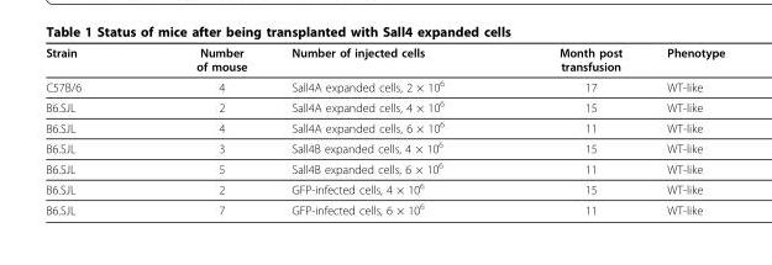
<table><thead><tr><td>Strain</td><td>Number of mouse</td><td>Number of injected cells</td><td>Month post transfusion</td><td>Phenotype</td></tr></thead><tbody><tr><td>C57B/6</td><td>4</td><td>Sall4A expanded cells, 2 × 10<sup>6</sup></td><td>17</td><td>WT-like</td></tr><tr><td>B6.SJL</td><td>2</td><td>Sall4A expanded cells, 4 × 10<sup>6</sup></td><td>15</td><td>WT-like</td></tr><tr><td>B6.SJL</td><td>4</td><td>Sall4A expanded cells, 6 × 10<sup>6</sup></td><td>11</td><td>WT-like</td></tr><tr><td>B6.SJL</td><td>3</td><td>Sall4B expanded cells, 4 × 10<sup>6</sup></td><td>15</td><td>WT-like</td></tr><tr><td>B6.SJL</td><td>5</td><td>Sall4B expanded cells, 6 × 10<sup>6</sup></td><td>11</td><td>WT-like</td></tr><tr><td>B6.SJL</td><td>2</td><td>GFP-infected cells, 4 × 10<sup>6</sup></td><td>15</td><td>WT-like</td></tr><tr><td>B6.SJL</td><td>7</td><td>GFP-infected cells, 6 × 10<sup>6</sup></td><td>11</td><td>WT-like</td></tr></tbody></table>